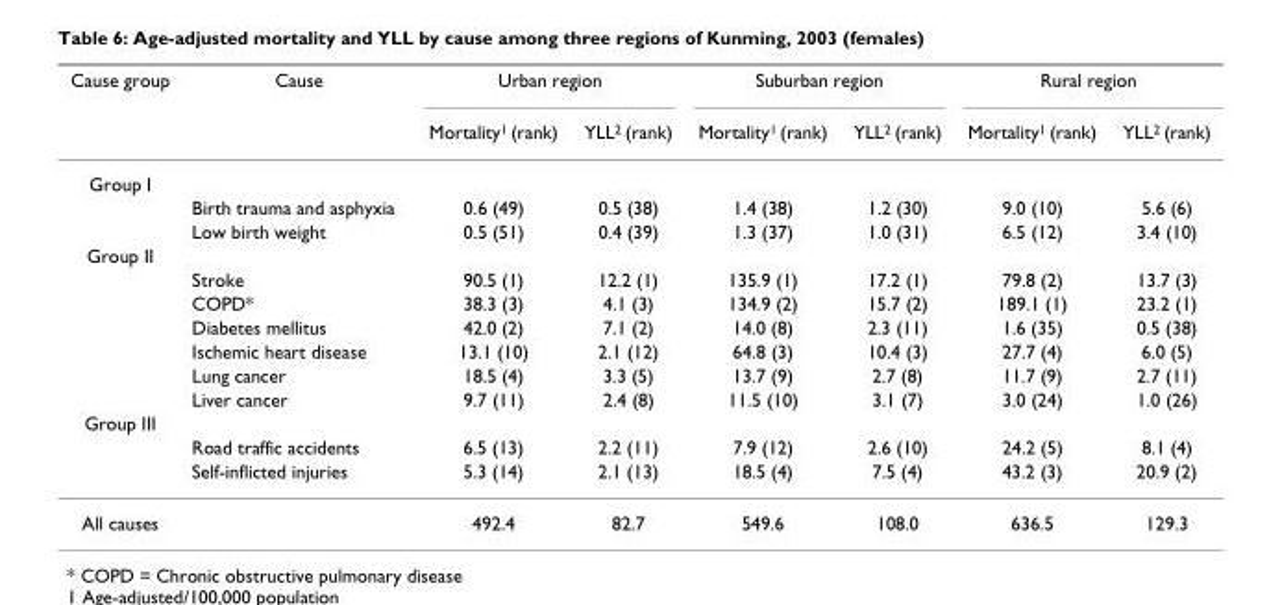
<table><thead><tr><td rowspan="2">Cause group</td><td rowspan="2">Cause</td><td colspan="2">Urban region</td><td colspan="2">Suburban region</td><td colspan="2">Rural region</td></tr><tr><td>Mortality<sup>1</sup> (rank)</td><td>YLL<sup>2</sup> (rank)</td><td>Mortality<sup>1</sup> (rank)</td><td>YLL<sup>2</sup> (rank)</td><td>Mortality<sup>1</sup> (rank)</td><td>YLL<sup>2</sup> (rank)</td></tr></thead><tbody><tr><td colspan="8">Group I</td></tr><tr><td></td><td>Birth trauma and asphyxia</td><td>0.6 (49)</td><td>0.5 (38)</td><td>1.4 (38)</td><td>1.2 (30)</td><td>9.0 (10)</td><td>5.6 (6)</td></tr><tr><td></td><td>Low birth weight</td><td>0.5 (51)</td><td>0.4 (39)</td><td>1.3 (37)</td><td>1.0 (31)</td><td>6.5 (12)</td><td>3.4 (10)</td></tr><tr><td colspan="8">Group II</td></tr><tr><td></td><td>Stroke</td><td>90.5 (1)</td><td>12.2 (1)</td><td>135.9 (1)</td><td>17.2 (1)</td><td>79.8 (2)</td><td>13.7 (3)</td></tr><tr><td></td><td>COPD*</td><td>38.3 (3)</td><td>4.1 (3)</td><td>134.9 (2)</td><td>15.7 (2)</td><td>189.1 (1)</td><td>23.2 (1)</td></tr><tr><td></td><td>Diabetes mellitus</td><td>42.0 (2)</td><td>7.1 (2)</td><td>14.0 (8)</td><td>2.3 (11)</td><td>1.6 (35)</td><td>0.5 (38)</td></tr><tr><td></td><td>Ischemic heart disease</td><td>13.1 (10)</td><td>2.1 (12)</td><td>64.8 (3)</td><td>10.4 (3)</td><td>27.7 (4)</td><td>6.0 (5)</td></tr><tr><td></td><td>Lung cancer</td><td>18.5 (4)</td><td>3.3 (5)</td><td>13.7 (9)</td><td>2.7 (8)</td><td>11.7 (9)</td><td>2.7 (11)</td></tr><tr><td></td><td>Liver cancer</td><td>9.7 (11)</td><td>2.4 (8)</td><td>11.5 (10)</td><td>3.1 (7)</td><td>3.0 (24)</td><td>1.0 (26)</td></tr><tr><td colspan="8">Group III</td></tr><tr><td></td><td>Road traffic accidents</td><td>6.5 (13)</td><td>2.2 (11)</td><td>7.9 (12)</td><td>2.6 (10)</td><td>24.2 (5)</td><td>8.1 (4)</td></tr><tr><td></td><td>Self-inflicted injuries</td><td>5.3 (14)</td><td>2.1 (13)</td><td>18.5 (4)</td><td>7.5 (4)</td><td>43.2 (3)</td><td>20.9 (2)</td></tr><tr><td>All causes</td><td></td><td>492.4</td><td>82.7</td><td>549.6</td><td>108.0</td><td>636.5</td><td>129.3</td></tr></tbody></table>